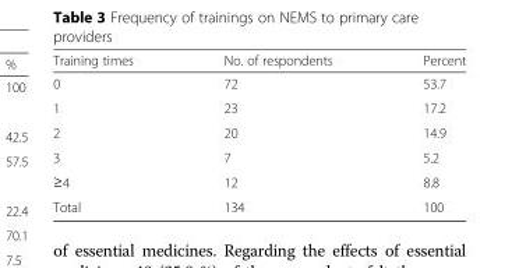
<table><thead><tr><td>Training times</td><td>No. of respondents</td><td>Percent</td></tr></thead><tbody><tr><td>0</td><td>72</td><td>53.7</td></tr><tr><td>1</td><td>23</td><td>17.2</td></tr><tr><td>2</td><td>20</td><td>14.9</td></tr><tr><td>3</td><td>7</td><td>5.2</td></tr><tr><td>≥4</td><td>12</td><td>8.8</td></tr><tr><td>Total</td><td>134</td><td>100</td></tr></tbody></table>